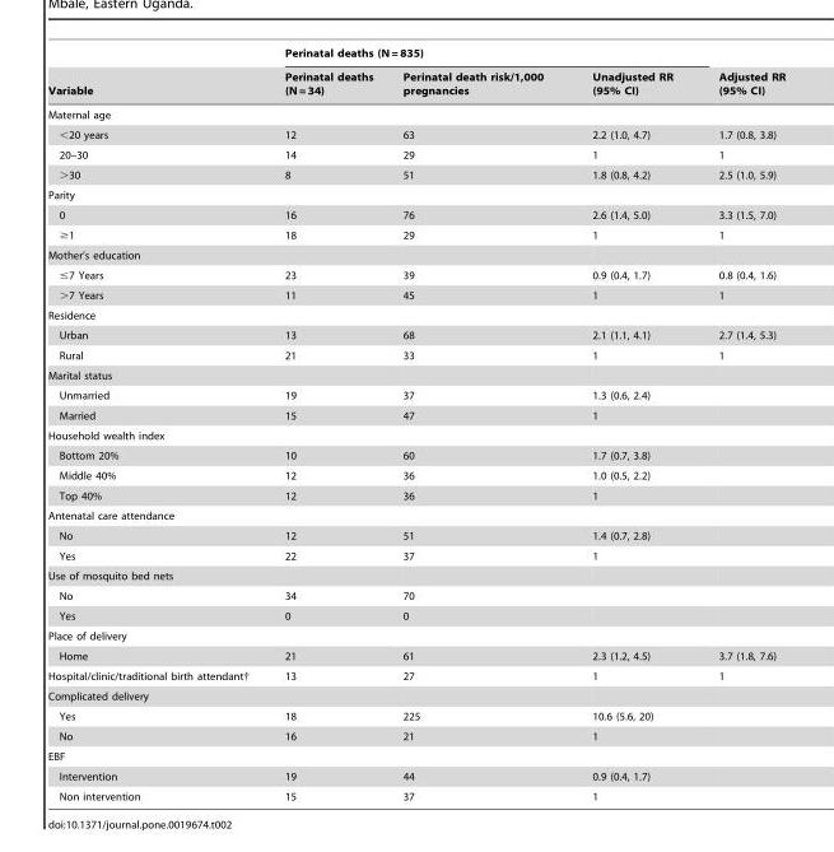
<table><thead><tr><td rowspan="2">Variable</td><td colspan="3">Perinatal deaths (N = 835)</td><td rowspan="2">Adjusted RR (95% CI)</td></tr><tr><td>Perinatal deaths (N = 34)</td><td>Perinatal death risk/1,000 pregnancies</td><td>Unadjusted RR (95% CI)</td></tr></thead><tbody><tr><td colspan="5">Maternal age</td></tr><tr><td>&lt;20 years</td><td>12</td><td>63</td><td>2.2 (1.0, 4.7)</td><td>1.7 (0.8, 3.8)</td></tr><tr><td>20–30</td><td>14</td><td>29</td><td>1</td><td>1</td></tr><tr><td>&gt;30</td><td>8</td><td>51</td><td>1.8 (0.8, 4.2)</td><td>2.5 (1.0, 5.9)</td></tr><tr><td colspan="5">Parity</td></tr><tr><td>0</td><td>16</td><td>76</td><td>2.6 (1.4, 5.0)</td><td>3.3 (1.5, 7.0)</td></tr><tr><td>≥1</td><td>18</td><td>29</td><td>1</td><td>1</td></tr><tr><td colspan="5">Mother’s education</td></tr><tr><td>≤7 Years</td><td>23</td><td>39</td><td>0.9 (0.4, 1.7)</td><td>0.8 (0.4, 1.6)</td></tr><tr><td>&gt;7 Years</td><td>11</td><td>45</td><td>1</td><td>1</td></tr><tr><td colspan="5">Residence</td></tr><tr><td>Urban</td><td>13</td><td>68</td><td>2.1 (1.1, 4.1)</td><td>2.7 (1.4, 5.3)</td></tr><tr><td>Rural</td><td>21</td><td>33</td><td>1</td><td>1</td></tr><tr><td colspan="5">Marital status</td></tr><tr><td>Unmarried</td><td>19</td><td>37</td><td>1.3 (0.6, 2.4)</td><td></td></tr><tr><td>Married</td><td>15</td><td>47</td><td>1</td><td></td></tr><tr><td colspan="5">Household wealth index</td></tr><tr><td>Bottom 20%</td><td>10</td><td>60</td><td>1.7 (0.7, 3.8)</td><td></td></tr><tr><td>Middle 40%</td><td>12</td><td>36</td><td>1.0 (0.5, 2.2)</td><td></td></tr><tr><td>Top 40%</td><td>12</td><td>36</td><td>1</td><td></td></tr><tr><td colspan="5">Antenatal care attendance</td></tr><tr><td>No</td><td>12</td><td>51</td><td>1.4 (0.7, 2.8)</td><td></td></tr><tr><td>Yes</td><td>22</td><td>37</td><td>1</td><td></td></tr><tr><td colspan="5">Use of mosquito bed nets</td></tr><tr><td>No</td><td>34</td><td>70</td><td></td><td></td></tr><tr><td>Yes</td><td>0</td><td>0</td><td></td><td></td></tr><tr><td colspan="5">Place of delivery</td></tr><tr><td>Home</td><td>21</td><td>61</td><td>2.3 (1.2, 4.5)</td><td>3.7 (1.8, 7.6)</td></tr><tr><td>Hospital/clinic/traditional birth attendant†</td><td>13</td><td>27</td><td>1</td><td>1</td></tr><tr><td colspan="5">Complicated delivery</td></tr><tr><td>Yes</td><td>18</td><td>225</td><td>10.6 (5.6, 20)</td><td></td></tr><tr><td>No</td><td>16</td><td>21</td><td>1</td><td></td></tr><tr><td colspan="5">EBF</td></tr><tr><td>Intervention</td><td>19</td><td>44</td><td>0.9 (0.4, 1.7)</td><td></td></tr><tr><td>Non intervention</td><td>15</td><td>37</td><td>1</td><td></td></tr></tbody></table>